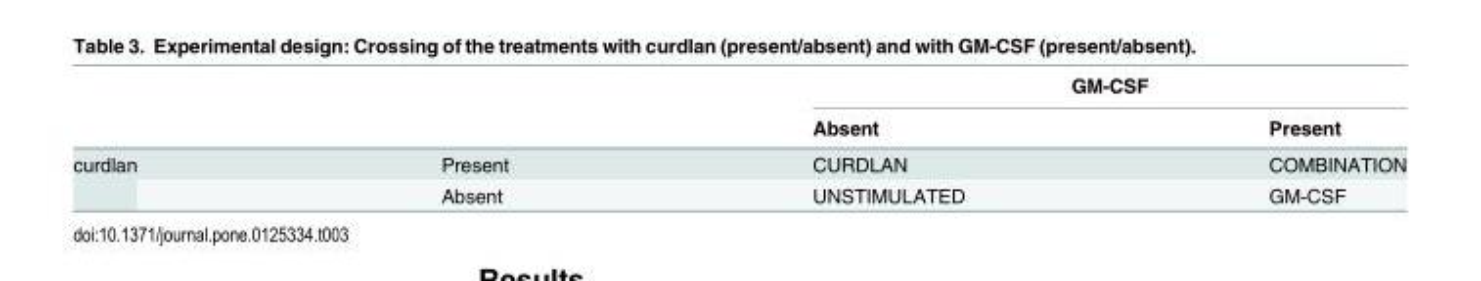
<table><thead><tr><td rowspan="2"></td><td rowspan="2"></td><td colspan="2">GM-CSF</td></tr><tr><td>Absent</td><td>Present</td></tr></thead><tbody><tr><td rowspan="2">curdlan</td><td>Present</td><td>CURDLAN</td><td>COMBINATION</td></tr><tr><td>Absent</td><td>UNSTIMULATED</td><td>GM-CSF</td></tr></tbody></table>